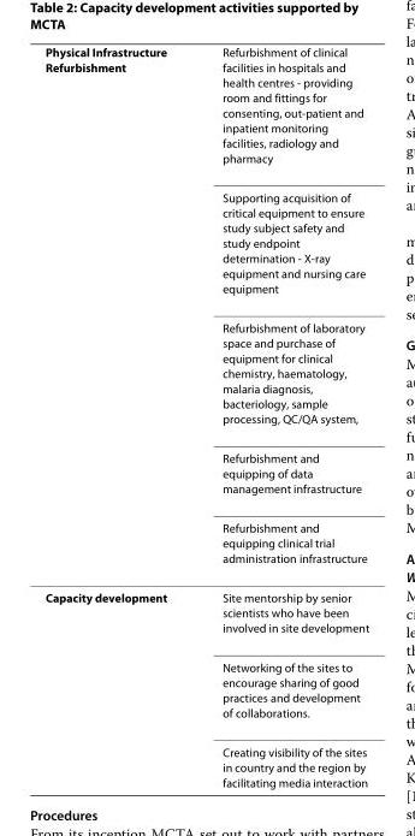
<table><thead><tr><td rowspan="5">Physical Infrastructure Refurbishment</td><td rowspan="5">Refurbishment of clinical facilities in hospitals and health centres - providing room and fittings for consenting, out-patient and inpatient monitoring facilities, radiology and pharmacy Supporting acquisition of critical equipment to ensure study subject safety and study endpoint determination - X-ray equipment and nursing care equipment Refurbishment of laboratory space and purchase of equipment for clinical chemistry, haematology, malaria diagnosis, bacteriology, sample processing, QC/QA system, Refurbishment and equipping of data management infrastructure Refurbishment and equipping clinical trial administration infrastructure</td></tr><tr></tr><tr></tr><tr></tr><tr></tr></thead><tbody><tr><td rowspan="3">Capacity development</td><td>Site mentorship by senior scientists who have been involved in site development</td></tr><tr><td>Networking of the sites to encourage sharing of good practices and development of collaborations.</td></tr><tr><td>Creating visibility of the sites in country and the region by facilitating media interaction</td></tr></tbody></table>